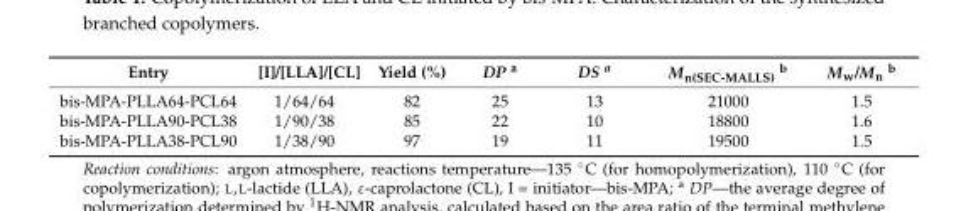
<table><thead><tr><td>Entry</td><td>[I]/[LLA]/[CL]</td><td>Yield (%)</td><td>DP a</td><td>DS a</td><td>Mn(SEC-MALLS) b</td><td>Mw/Mn b</td></tr></thead><tbody><tr><td>bis-MPA-PLLA64-PCL64</td><td>1/64/64</td><td>82</td><td>25</td><td>13</td><td>21000</td><td>1.5</td></tr><tr><td>bis-MPA-PLLA90-PCL38</td><td>1/90/38</td><td>85</td><td>22</td><td>10</td><td>18800</td><td>1.6</td></tr><tr><td>bis-MPA-PLLA38-PCL90</td><td>1/38/90</td><td>97</td><td>19</td><td>11</td><td>19500</td><td>1.5</td></tr></tbody></table>